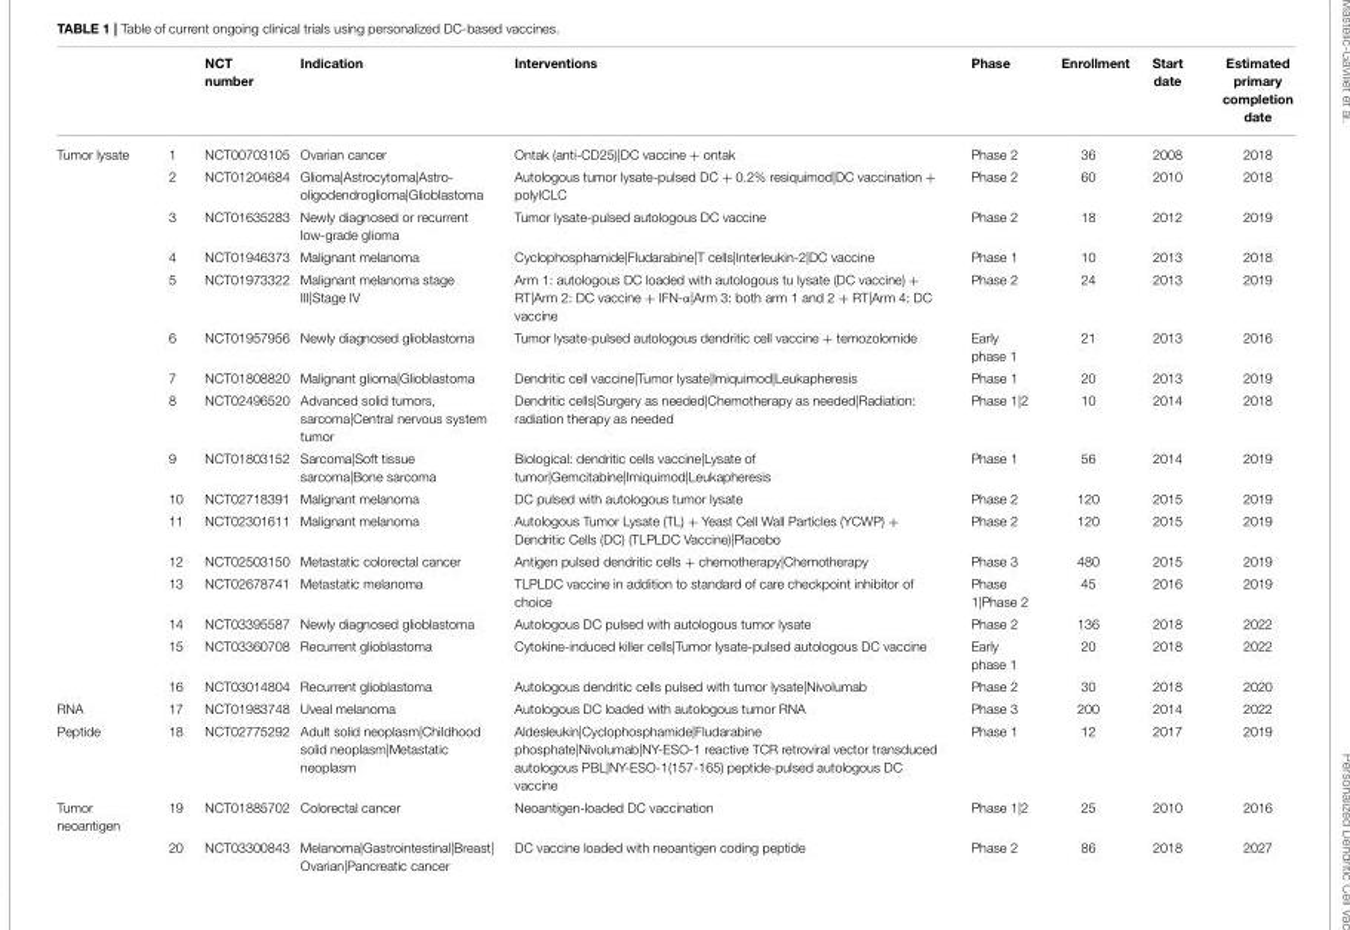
<table><thead><tr><td></td><td></td><td>NCT number</td><td>Indication</td><td>Interventions</td><td>Phase</td><td>Enrollment</td><td>Start date</td><td>Estimated primary completion date</td></tr></thead><tbody><tr><td rowspan="16">Tumor lysate</td><td>1</td><td>NCT00703105</td><td>Ovarian cancer</td><td>Ontak (anti-CD25)|DC vaccine + ontak</td><td>Phase 2</td><td>36</td><td>2008</td><td>2018</td></tr><tr><td>2</td><td>NCT01204684</td><td>Glioma|Astrocytoma|Astro- oligodendroglioma|Glioblastoma</td><td>Autologous tumor lysate-pulsed DC + 0.2% resiquimod|DC vaccination + polyICLC</td><td>Phase 2</td><td>60</td><td>2010</td><td>2018</td></tr><tr><td>3</td><td>NCT01635283</td><td>Newly diagnosed or recurrent low-grade glioma</td><td>Tumor lysate-pulsed autologous DC vaccine</td><td>Phase 2</td><td>18</td><td>2012</td><td>2019</td></tr><tr><td>4</td><td>NCT01946373</td><td>Malignant melanoma</td><td>Cyclophosphamide|Fludarabine|T cells|Interleukin-2|DC vaccine</td><td>Phase 1</td><td>10</td><td>2013</td><td>2018</td></tr><tr><td>5</td><td>NCT01973322</td><td>Malignant melanoma stage III|Stage IV</td><td>Arm 1: autologous DC loaded with autologous tu lysate (DC vaccine) + RT|Arm 2: DC vaccine + IFN-α|Arm 3: both arm 1 and 2 + RT|Arm 4: DC vaccine</td><td>Phase 2</td><td>24</td><td>2013</td><td>2019</td></tr><tr><td>6</td><td>NCT01957956</td><td>Newly diagnosed glioblastoma</td><td>Tumor lysate-pulsed autologous dendritic cell vaccine + temozolomide</td><td>Early phase 1</td><td>21</td><td>2013</td><td>2016</td></tr><tr><td>7</td><td>NCT01808820</td><td>Malignant glioma|Glioblastoma</td><td>Dendritic cell vaccine|Tumor lysate|Imiquimod|Leukapheresis</td><td>Phase 1</td><td>20</td><td>2013</td><td>2019</td></tr><tr><td>8</td><td>NCT02496520</td><td>Advanced solid tumors, sarcoma|Central nervous system tumor</td><td>Dendritic cells|Surgery as needed|Chemotherapy as needed|Radiation: radiation therapy as needed</td><td>Phase 1|2</td><td>10</td><td>2014</td><td>2018</td></tr><tr><td>9</td><td>NCT01803152</td><td>Sarcoma|Soft tissue sarcoma|Bone sarcoma</td><td>Biological: dendritic cells vaccine|Lysate of tumor|Gemcitabine|Imiquimod|Leukapheresis</td><td>Phase 1</td><td>56</td><td>2014</td><td>2019</td></tr><tr><td>10</td><td>NCT02718391</td><td>Malignant melanoma</td><td>DC pulsed with autologous tumor lysate</td><td>Phase 2</td><td>120</td><td>2015</td><td>2019</td></tr><tr><td>11</td><td>NCT02301611</td><td>Malignant melanoma</td><td>Autologous Tumor Lysate (TL) + Yeast Cell Wall Particles (YCWP) + Dendritic Cells (DC) (TLPLDC Vaccine)|Placebo</td><td>Phase 2</td><td>120</td><td>2015</td><td>2019</td></tr><tr><td>12</td><td>NCT02503150</td><td>Metastatic colorectal cancer</td><td>Antigen pulsed dendritic cells + chemotherapy|Chemotherapy</td><td>Phase 3</td><td>480</td><td>2015</td><td>2019</td></tr><tr><td>13</td><td>NCT02678741</td><td>Metastatic melanoma</td><td>TLPLDC vaccine in addition to standard of care checkpoint inhibitor of choice</td><td>Phase 1|Phase 2</td><td>45</td><td>2016</td><td>2019</td></tr><tr><td>14</td><td>NCT03395587</td><td>Newly diagnosed glioblastoma</td><td>Autologous DC pulsed with autologous tumor lysate</td><td>Phase 2</td><td>136</td><td>2018</td><td>2022</td></tr><tr><td>15</td><td>NCT03360708</td><td>Recurrent glioblastoma</td><td>Cytokine-induced killer cells|Tumor lysate-pulsed autologous DC vaccine</td><td>Early phase 1</td><td>20</td><td>2018</td><td>2022</td></tr><tr><td>16</td><td>NCT03014804</td><td>Recurrent glioblastoma</td><td>Autologous dendritic cells pulsed with tumor lysate|Nivolumab</td><td>Phase 2</td><td>30</td><td>2018</td><td>2020</td></tr><tr><td>RNA</td><td>17</td><td>NCT01983748</td><td>Uveal melanoma</td><td>Autologous DC loaded with autologous tumor RNA</td><td>Phase 3</td><td>200</td><td>2014</td><td>2022</td></tr><tr><td>Peptide</td><td>18</td><td>NCT02775292</td><td>Adult solid neoplasm|Childhood solid neoplasm|Metastatic neoplasm</td><td>Aldesleukin|Cyclophosphamide|Fludarabine phosphate|Nivolumab|NY-ESO-1 reactive TCR retroviral vector transduced autologous PBL|NY-ESO-1(157-165) peptide-pulsed autologous DC vaccine</td><td>Phase 1</td><td>12</td><td>2017</td><td>2019</td></tr><tr><td rowspan="2">Tumor neoantigen</td><td>19</td><td>NCT01885702</td><td>Colorectal cancer</td><td>Neoantigen-loaded DC vaccination</td><td>Phase 1|2</td><td>25</td><td>2010</td><td>2016</td></tr><tr><td>20</td><td>NCT03300843</td><td>Melanoma|Gastrointestinal|Breast| Ovarian|Pancreatic cancer</td><td>DC vaccine loaded with neoantigen coding peptide</td><td>Phase 2</td><td>86</td><td>2018</td><td>2027</td></tr></tbody></table>